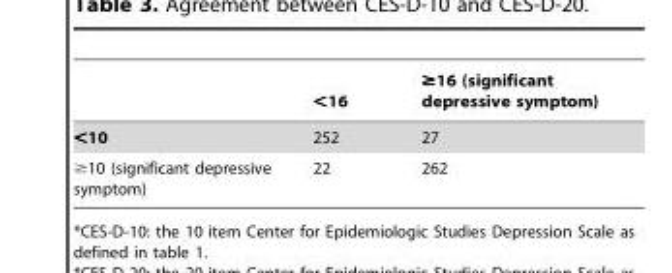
<table><thead><tr><td></td><td>&lt;16</td><td>≥16 (significant depressive symptom)</td></tr></thead><tbody><tr><td>&lt;10</td><td>252</td><td>27</td></tr><tr><td>≥10 (significant depressive symptom)</td><td>22</td><td>262</td></tr></tbody></table>